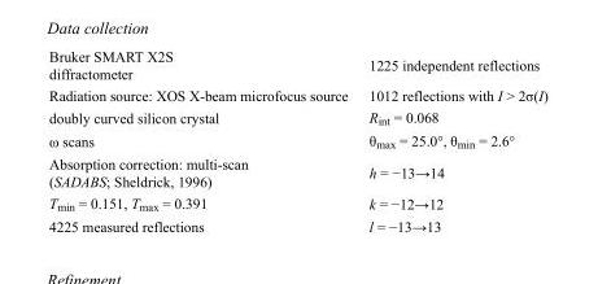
<table><tbody><tr><td>Bruker SMART X2S diffractometer</td><td>1225 independent reflections</td></tr><tr><td>Radiation source: XOS X-beam microfocus source</td><td>1012 reflections with I &gt; 2σ(I)</td></tr><tr><td>doubly curved silicon crystal</td><td>R<sub>int</sub> = 0.068</td></tr><tr><td>ω scans</td><td>θ<sub>max</sub> = 25.0°, θ<sub>min</sub> = 2.6°</td></tr><tr><td>Absorption correction: multi-scan (SADABS; Sheldrick, 1996)</td><td>h = −13→14</td></tr><tr><td>T<sub>min</sub> = 0.151, T<sub>max</sub> = 0.391</td><td>k = −12→12</td></tr><tr><td>4225 measured reflections</td><td>l = −13→13</td></tr></tbody></table>